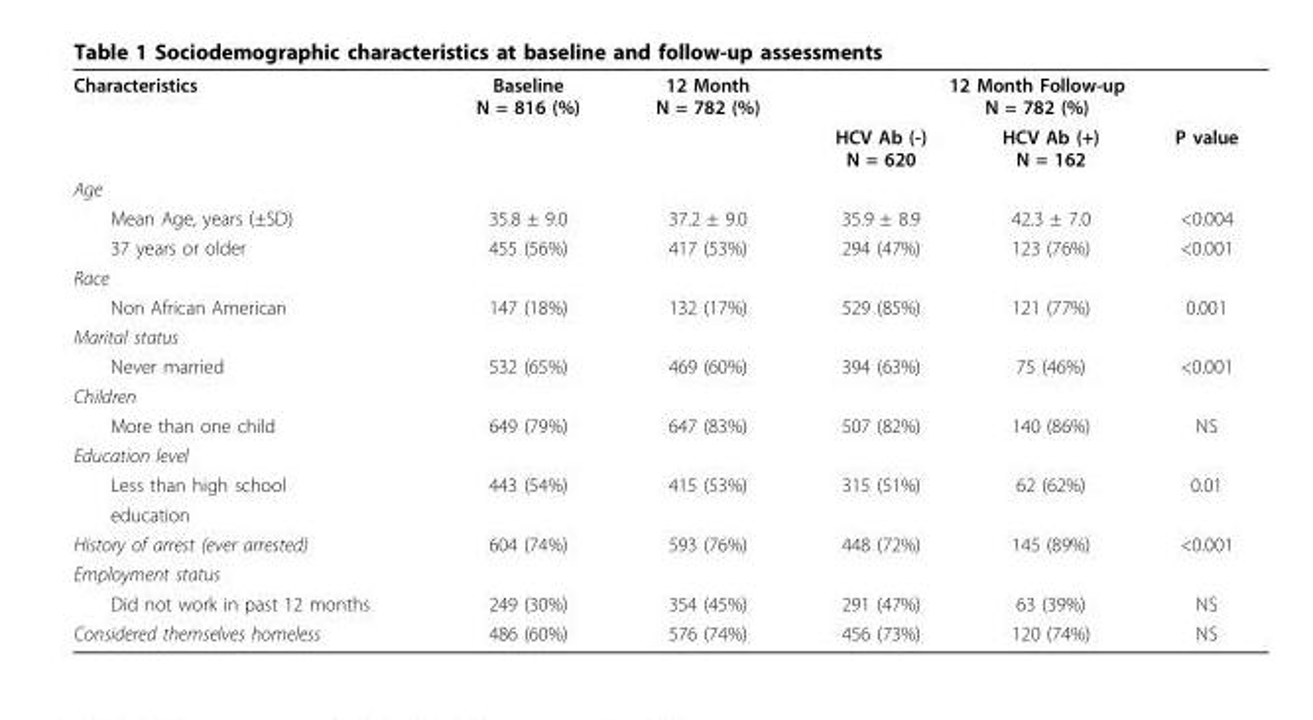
<table><tbody><tr><td rowspan="2">Characteristics</td><td>Baseline N = 816 (%)</td><td>12 Month N = 782 (%)</td><td colspan="3">12 Month Follow-up N = 782 (%)</td></tr><tr><td></td><td></td><td>HCV Ab (-) N = 620</td><td>HCV Ab (+) N = 162</td><td>P value</td></tr><tr><td colspan="6">Age</td></tr><tr><td>Mean Age, years (±SD)</td><td>35.8 ± 9.0</td><td>37.2 ± 9.0</td><td>35.9 ± 8.9</td><td>42.3 ± 7.0</td><td>&lt;0.004</td></tr><tr><td>37 years or older</td><td>455 (56%)</td><td>417 (53%)</td><td>294 (47%)</td><td>123 (76%)</td><td>&lt;0.001</td></tr><tr><td colspan="6">Race</td></tr><tr><td>Non African American</td><td>147 (18%)</td><td>132 (17%)</td><td>529 (85%)</td><td>121 (77%)</td><td>0.001</td></tr><tr><td colspan="6">Marital status</td></tr><tr><td>Never married</td><td>532 (65%)</td><td>469 (60%)</td><td>394 (63%)</td><td>75 (46%)</td><td>&lt;0.001</td></tr><tr><td colspan="6">Children</td></tr><tr><td>More than one child</td><td>649 (79%)</td><td>647 (83%)</td><td>507 (82%)</td><td>140 (86%)</td><td>NS</td></tr><tr><td colspan="6">Education level</td></tr><tr><td>Less than high school</td><td>443 (54%)</td><td>415 (53%)</td><td>315 (51%)</td><td>62 (62%)</td><td>0.01</td></tr><tr><td colspan="6">education</td></tr><tr><td>History of arrest (ever arrested)</td><td>604 (74%)</td><td>593 (76%)</td><td>448 (72%)</td><td>145 (89%)</td><td>&lt;0.001</td></tr><tr><td colspan="6">Employment status</td></tr><tr><td>Did not work in past 12 months</td><td>249 (30%)</td><td>354 (45%)</td><td>291 (47%)</td><td>63 (39%)</td><td>NS</td></tr><tr><td>Considered themselves homeless</td><td>486 (60%)</td><td>576 (74%)</td><td>456 (73%)</td><td>120 (74%)</td><td>NS</td></tr></tbody></table>